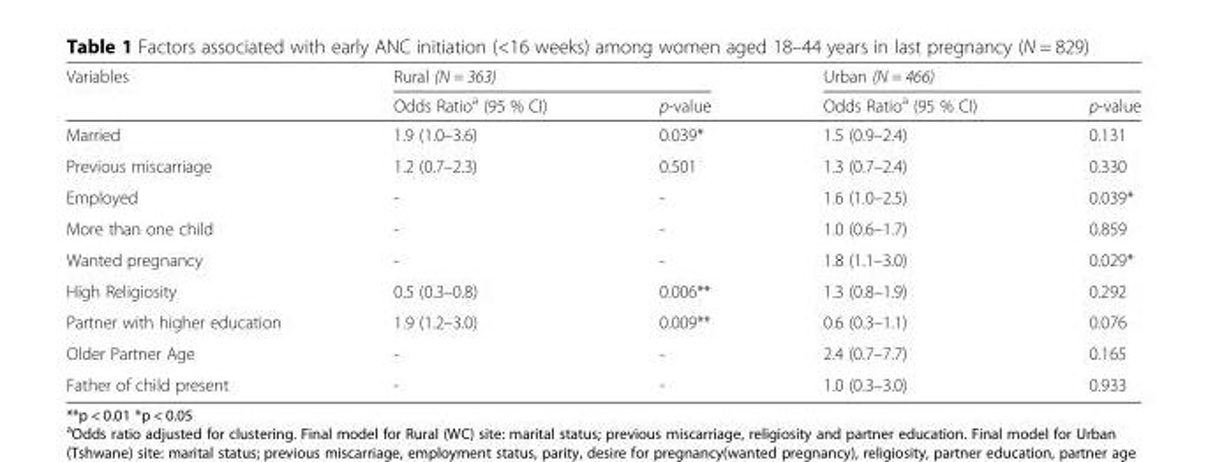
<table><thead><tr><td rowspan="2">Variables</td><td colspan="2">Rural (N = 363)</td><td colspan="2">Urban (N = 466)</td></tr><tr><td>Odds Ratio<sup>a</sup> (95 % CI)</td><td>p-value</td><td>Odds Ratio<sup>a</sup> (95 % CI)</td><td>p-value</td></tr></thead><tbody><tr><td>Married</td><td>1.9 (1.0–3.6)</td><td>0.039*</td><td>1.5 (0.9–2.4)</td><td>0.131</td></tr><tr><td>Previous miscarriage</td><td>1.2 (0.7–2.3)</td><td>0.501</td><td>1.3 (0.7–2.4)</td><td>0.330</td></tr><tr><td>Employed</td><td>-</td><td>-</td><td>1.6 (1.0–2.5)</td><td>0.039*</td></tr><tr><td>More than one child</td><td>-</td><td>-</td><td>1.0 (0.6–1.7)</td><td>0.859</td></tr><tr><td>Wanted pregnancy</td><td>-</td><td>-</td><td>1.8 (1.1–3.0)</td><td>0.029*</td></tr><tr><td>High Religiosity</td><td>0.5 (0.3–0.8)</td><td>0.006**</td><td>1.3 (0.8–1.9)</td><td>0.292</td></tr><tr><td>Partner with higher education</td><td>1.9 (1.2–3.0)</td><td>0.009**</td><td>0.6 (0.3–1.1)</td><td>0.076</td></tr><tr><td>Older Partner Age</td><td>-</td><td>-</td><td>2.4 (0.7–7.7)</td><td>0.165</td></tr><tr><td>Father of child present</td><td>-</td><td>-</td><td>1.0 (0.3–3.0)</td><td>0.933</td></tr></tbody></table>